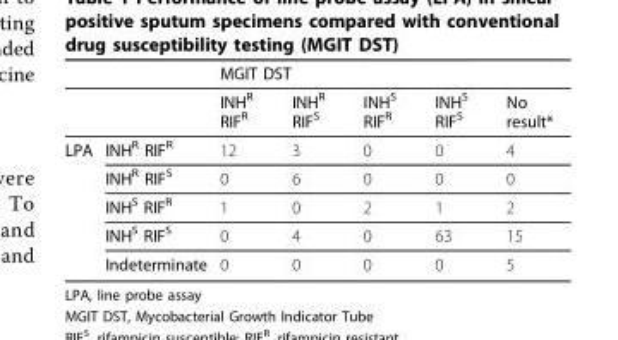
<table><thead><tr><td></td><td></td><td>MGIT DST</td><td></td><td></td><td></td><td></td></tr></thead><tbody><tr><td></td><td></td><td>INH<sup>R</sup> RIF<sup>R</sup></td><td>INH<sup>R</sup> RIF<sup>S</sup></td><td>INH<sup>S</sup> RIF<sup>R</sup></td><td>INH<sup>S</sup> RIF<sup>S</sup></td><td>No result*</td></tr><tr><td rowspan="5">LPA</td><td>INH<sup>R</sup> RIF<sup>R</sup></td><td>12</td><td>3</td><td>0</td><td>0</td><td>4</td></tr><tr><td>INH<sup>R</sup> RIF<sup>S</sup></td><td>0</td><td>6</td><td>0</td><td>0</td><td>0</td></tr><tr><td>INH<sup>S</sup> RIF<sup>R</sup></td><td>1</td><td>0</td><td>2</td><td>1</td><td>2</td></tr><tr><td>INH<sup>S</sup> RIF<sup>S</sup></td><td>0</td><td>4</td><td>0</td><td>63</td><td>15</td></tr><tr><td>Indeterminate</td><td>0</td><td>0</td><td>0</td><td>0</td><td>5</td></tr></tbody></table>